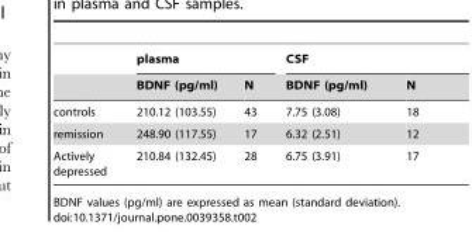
<table><thead><tr><td rowspan="2"></td><td colspan="2">plasma</td><td colspan="2">CSF</td></tr><tr><td>BDNF (pg/ml)</td><td>N</td><td>BDNF (pg/ml)</td><td>N</td></tr></thead><tbody><tr><td>controls</td><td>210.12 (103.55)</td><td>43</td><td>7.75 (3.08)</td><td>18</td></tr><tr><td>remission</td><td>248.90 (117.55)</td><td>17</td><td>6.32 (2.51)</td><td>12</td></tr><tr><td>Actively depressed</td><td>210.84 (132.45)</td><td>28</td><td>6.75 (3.91)</td><td>17</td></tr></tbody></table>